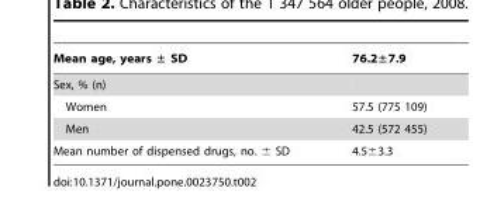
<table><thead><tr><td>Mean age, years ± SD</td><td>76.2±7.9</td></tr></thead><tbody><tr><td colspan="2">Sex, % (n)</td></tr><tr><td>Women</td><td>57.5 (775 109)</td></tr><tr><td>Men</td><td>42.5 (572 455)</td></tr><tr><td>Mean number of dispensed drugs, no. ± SD</td><td>4.5±3.3</td></tr></tbody></table>